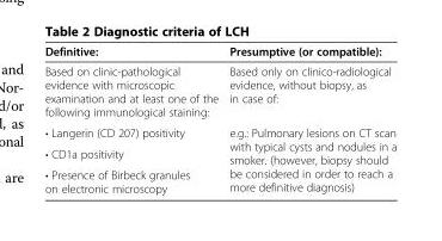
<table><thead><tr><td>Definitive:</td><td>Presumptive (or compatible):</td></tr></thead><tbody><tr><td>Based on clinic-pathological evidence with microscopic examination and at least one of the following immunological staining:</td><td>Based only on clinico-radiological evidence, without biopsy, as in case of:</td></tr><tr><td>• Langerin (CD 207) positivity</td><td rowspan="3">e.g.: Pulmonary lesions on CT scan with typical cysts and nodules in a smoker. (however, biopsy should be considered in order to reach a more definitive diagnosis)</td></tr><tr><td>• CD1a positivity</td></tr><tr><td>• Presence of Birbeck granules on electronic microscopy</td></tr></tbody></table>